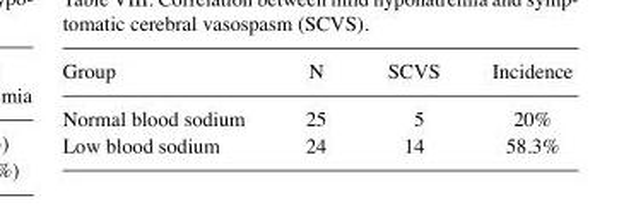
<table><thead><tr><td>Group</td><td>N</td><td>SCVS</td><td>Incidence</td></tr></thead><tbody><tr><td>Normal blood sodium</td><td>25</td><td>5</td><td>20%</td></tr><tr><td>Low blood sodium</td><td>24</td><td>14</td><td>58.3%</td></tr></tbody></table>